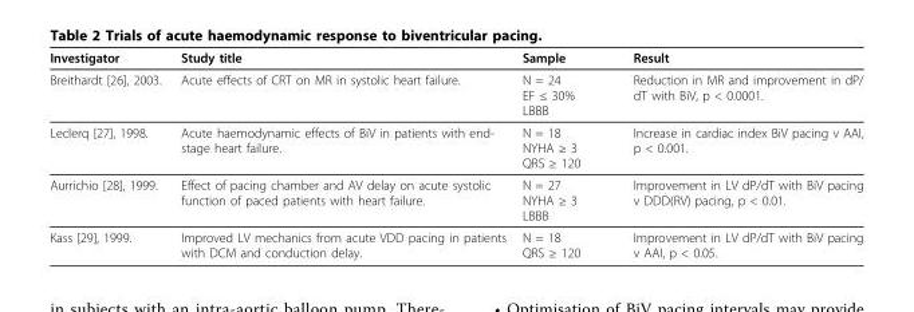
<table><thead><tr><td>Investigator</td><td>Study title</td><td>Sample</td><td>Result</td></tr></thead><tbody><tr><td>Breithardt [26], 2003.</td><td>Acute effects of CRT on MR in systolic heart failure.</td><td>N = 24 EF ≤ 30% LBBB</td><td>Reduction in MR and improvement in dP/ dT with BiV, p &lt; 0.0001.</td></tr><tr><td>Leclerq [27], 1998.</td><td>Acute haemodynamic effects of BiV in patients with end- stage heart failure.</td><td>N = 18 NYHA ≥ 3 QRS ≥ 120</td><td>Increase in cardiac index BiV pacing v AAI, p &lt; 0.001.</td></tr><tr><td>Aurrichio [28], 1999.</td><td>Effect of pacing chamber and AV delay on acute systolic function of paced patients with heart failure.</td><td>N = 27 NYHA ≥ 3 LBBB</td><td>Improvement in LV dP/dT with BiV pacing v DDD(RV) pacing, p &lt; 0.01.</td></tr><tr><td>Kass [29], 1999.</td><td>Improved LV mechanics from acute VDD pacing in patients with DCM and conduction delay.</td><td>N = 18 QRS ≥ 120</td><td>Improvement in LV dP/dT with BiV pacing v AAI, p &lt; 0.05.</td></tr></tbody></table>